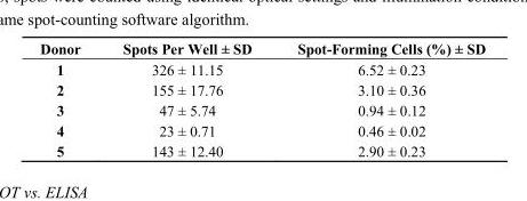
<table><thead><tr><td>Donor</td><td>Spots Per Well ± SD</td><td>Spot-Forming Cells (%) ± SD</td></tr></thead><tbody><tr><td>1</td><td>326 ± 11.15</td><td>6.52 ± 0.23</td></tr><tr><td>2</td><td>155 ± 17.76</td><td>3.10 ± 0.36</td></tr><tr><td>3</td><td>47 ± 5.74</td><td>0.94 ± 0.12</td></tr><tr><td>4</td><td>23 ± 0.71</td><td>0.46 ± 0.02</td></tr><tr><td>5</td><td>143 ± 12.40</td><td>2.90 ± 0.23</td></tr></tbody></table>